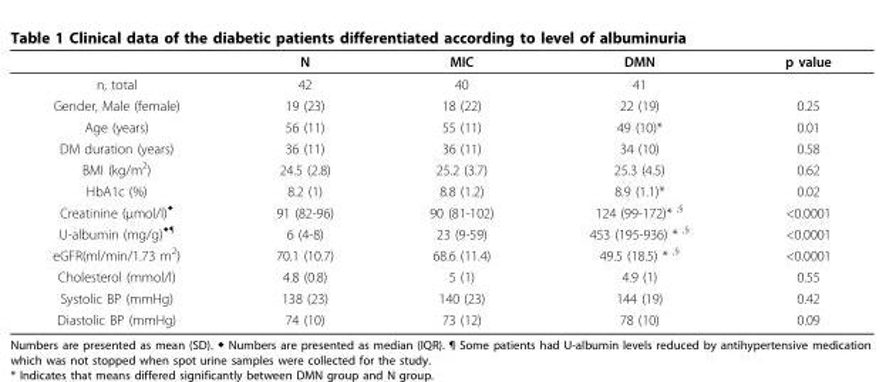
<table><thead><tr><td></td><td>N</td><td>MIC</td><td>DMN</td><td>p value</td></tr></thead><tbody><tr><td>n, total</td><td>42</td><td>40</td><td>41</td><td></td></tr><tr><td>Gender, Male (female)</td><td>19 (23)</td><td>18 (22)</td><td>22 (19)</td><td>0.25</td></tr><tr><td>Age (years)</td><td>56 (11)</td><td>55 (11)</td><td>49 (10)*</td><td>0.01</td></tr><tr><td>DM duration (years)</td><td>36 (11)</td><td>36 (11)</td><td>34 (10)</td><td>0.58</td></tr><tr><td>BMI (kg/m<sup>2</sup>)</td><td>24.5 (2.8)</td><td>25.2 (3.7)</td><td>25.3 (4.5)</td><td>0.62</td></tr><tr><td>HbA1c (%)</td><td>8.2 (1)</td><td>8.8 (1.2)</td><td>8.9 (1.1)*</td><td>0.02</td></tr><tr><td>Creatinine (μmol/l)<sup>◆</sup></td><td>91 (82-96)</td><td>90 (81-102)</td><td>124 (99-172)* <sup>,§</sup></td><td>&lt;0.0001</td></tr><tr><td>U-albumin (mg/g)<sup>◆¶</sup></td><td>6 (4-8)</td><td>23 (9-59)</td><td>453 (195-936) * <sup>,§</sup></td><td>&lt;0.0001</td></tr><tr><td>eGFR(ml/min/1.73 m<sup>2</sup>)</td><td>70.1 (10.7)</td><td>68.6 (11.4)</td><td>49.5 (18.5) * <sup>,§</sup></td><td>&lt;0.0001</td></tr><tr><td>Cholesterol (mmol/l)</td><td>4.8 (0.8)</td><td>5 (1)</td><td>4.9 (1)</td><td>0.55</td></tr><tr><td>Systolic BP (mmHg)</td><td>138 (23)</td><td>140 (23)</td><td>144 (19)</td><td>0.42</td></tr><tr><td>Diastolic BP (mmHg)</td><td>74 (10)</td><td>73 (12)</td><td>78 (10)</td><td>0.09</td></tr></tbody></table>